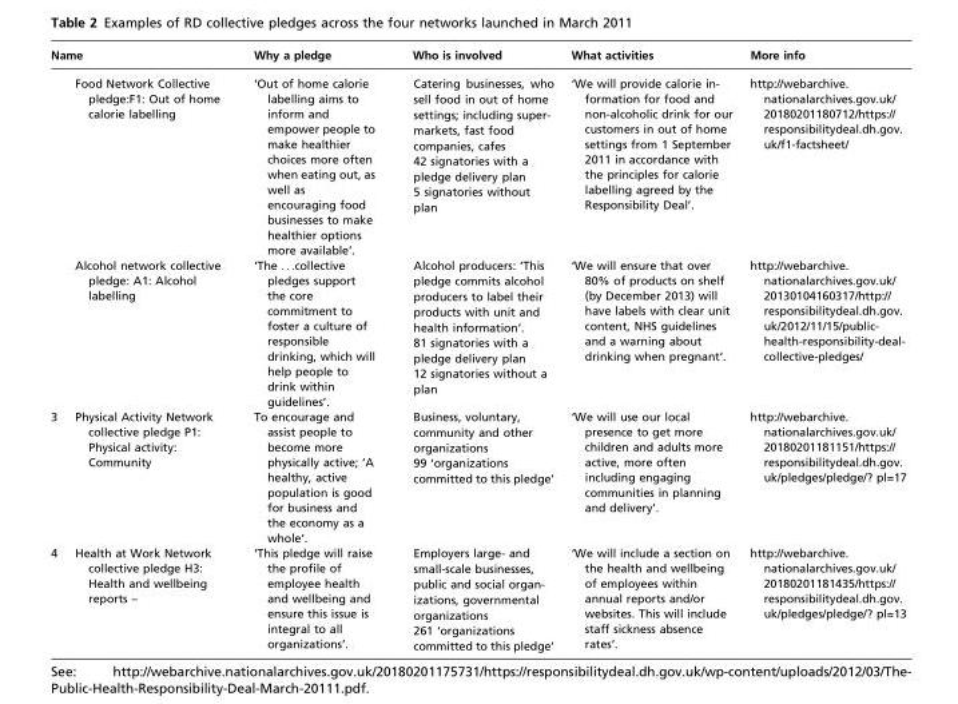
<table><thead><tr><td colspan="2">Name</td><td rowspan="2">Why a pledge ‘Out of home calorie labelling aims to inform and empower people to make healthier choices more often when eating out, as well as encouraging food businesses to make healthier options more available’.</td><td rowspan="2">Who is involved Catering businesses, who sell food in out of home settings; including super- markets, fast food companies, cafes 42 signatories with a pledge delivery plan 5 signatories without plan</td><td rowspan="2">What activities ‘We will provide calorie in- formation for food and non-alcoholic drink for our customers in out of home settings from 1 September 2011 in accordance with the principles for calorie labelling agreed by the Responsibility Deal’.</td><td rowspan="2">More info http://webarchive. nationalarchives.gov.uk/ 20180201180712/https:// responsibilitydeal.dh.gov. uk/f1-factsheet/</td></tr><tr><td></td><td>Food Network Collective pledge:F1: Out of home calorie labelling</td></tr></thead><tbody><tr><td></td><td>Alcohol network collective pledge: A1: Alcohol labelling</td><td>‘The . . .collective pledges support the core commitment to foster a culture of responsible drinking, which will help people to drink within guidelines’.</td><td>Alcohol producers: ‘This pledge commits alcohol producers to label their products with unit and health information’. 81 signatories with a pledge delivery plan 12 signatories without a plan</td><td>‘We will ensure that over 80% of products on shelf (by December 2013) will have labels with clear unit content, NHS guidelines and a warning about drinking when pregnant’.</td><td>http://webarchive. nationalarchives.gov.uk/ 20130104160317/http:// responsibilitydeal.dh.gov. uk/2012/11/15/public- health-responsibility-deal- collective-pledges/</td></tr><tr><td>3</td><td>Physical Activity Network collective pledge P1: Physical activity: Community</td><td>To encourage and assist people to become more physically active; ‘A healthy, active population is good for business and the economy as a whole’.</td><td>Business, voluntary, community and other organizations 99 ‘organizations committed to this pledge’</td><td>‘We will use our local presence to get more children and adults more active, more often including engaging communities in planning and delivery’.</td><td>http://webarchive. nationalarchives.gov.uk/ 20180201181151/https:// responsibilitydeal.dh.gov. uk/pledges/pledge/? pl=17</td></tr><tr><td>4</td><td>Health at Work Network collective pledge H3: Health and wellbeing reports –</td><td>‘This pledge will raise the profile of employee health and wellbeing and ensure this issue is integral to all organizations’.</td><td>Employers large- and small-scale businesses, public and social organ- izations, governmental organizations 261 ‘organizations committed to this pledge’</td><td>‘We will include a section on the health and wellbeing of employees within annual reports and/or websites. This will include staff sickness absence rates’.</td><td>http://webarchive. nationalarchives.gov.uk/ 20180201181435/https:// responsibilitydeal.dh.gov. uk/pledges/pledge/? pl=13</td></tr></tbody></table>